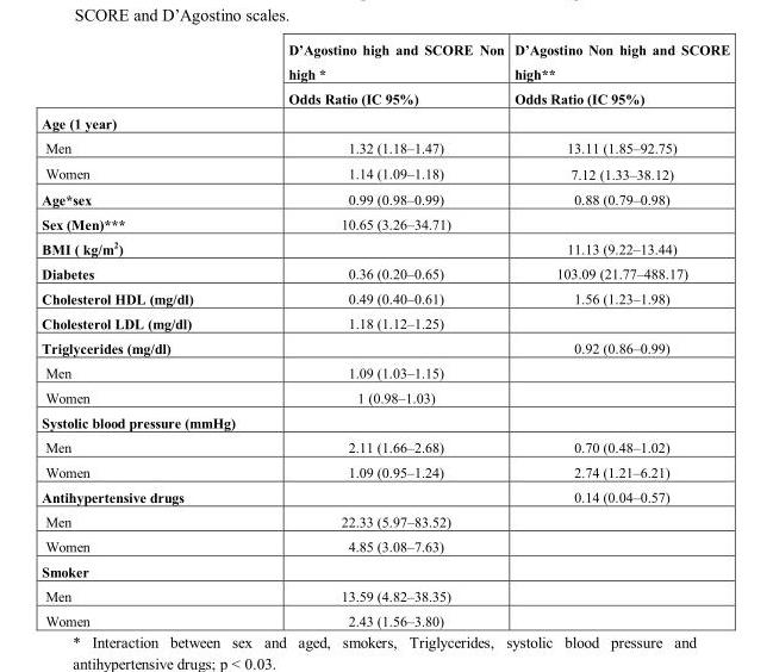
<table><thead><tr><td rowspan="2"></td><td rowspan="2">D’Agostino high and SCORE Non high * Odds Ratio (IC 95%)</td><td rowspan="2">D’Agostino Non high and SCORE high** Odds Ratio (IC 95%)</td></tr><tr></tr></thead><tbody><tr><td colspan="3">Age (1 year)</td></tr><tr><td>Men</td><td>1.32 (1.18–1.47)</td><td>13.11 (1.85–92.75)</td></tr><tr><td>Women</td><td>1.14 (1.09–1.18)</td><td>7.12 (1.33–38.12)</td></tr><tr><td>Age*sex</td><td>0.99 (0.98–0.99)</td><td>0.88 (0.79–0.98)</td></tr><tr><td>Sex (Men)***</td><td>10.65 (3.26–34.71)</td><td></td></tr><tr><td>BMI ( kg/m<sup>2</sup>)</td><td></td><td>11.13 (9.22–13.44)</td></tr><tr><td>Diabetes</td><td>0.36 (0.20–0.65)</td><td>103.09 (21.77–488.17)</td></tr><tr><td>Cholesterol HDL (mg/dl)</td><td>0.49 (0.40–0.61)</td><td>1.56 (1.23–1.98)</td></tr><tr><td>Cholesterol LDL (mg/dl)</td><td>1.18 (1.12–1.25)</td><td></td></tr><tr><td>Triglycerides (mg/dl)</td><td></td><td>0.92 (0.86–0.99)</td></tr><tr><td>Men</td><td>1.09 (1.03–1.15)</td><td></td></tr><tr><td>Women</td><td>1 (0.98–1.03)</td><td></td></tr><tr><td colspan="3">Systolic blood pressure (mmHg)</td></tr><tr><td>Men</td><td>2.11 (1.66–2.68)</td><td>0.70 (0.48–1.02)</td></tr><tr><td>Women</td><td>1.09 (0.95–1.24)</td><td>2.74 (1.21–6.21)</td></tr><tr><td>Antihypertensive drugs</td><td></td><td>0.14 (0.04–0.57)</td></tr><tr><td>Men</td><td>22.33 (5.97–83.52)</td><td></td></tr><tr><td>Women</td><td>4.85 (3.08–7.63)</td><td></td></tr><tr><td colspan="3">Smoker</td></tr><tr><td>Men</td><td>13.59 (4.82–38.35)</td><td></td></tr><tr><td>Women</td><td>2.43 (1.56–3.80)</td><td></td></tr></tbody></table>